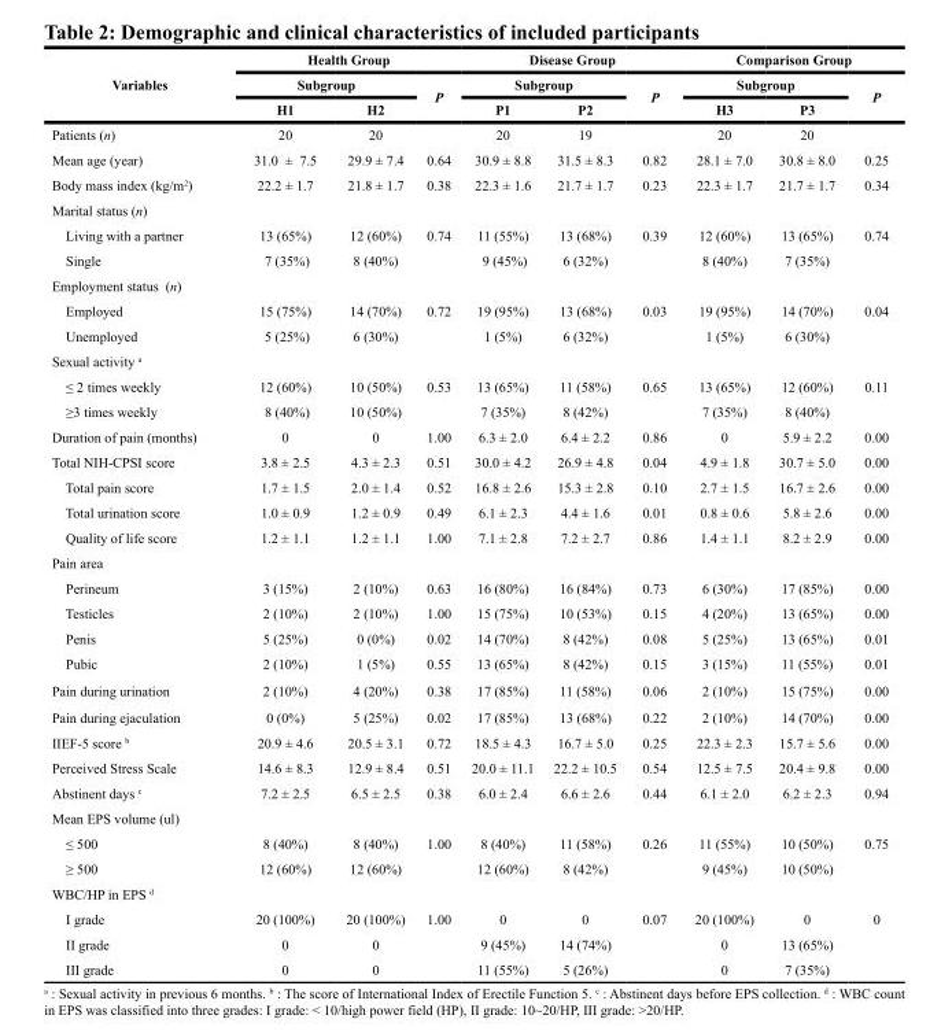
<table><thead><tr><td rowspan="3">Variables</td><td colspan="3">Health Group</td><td colspan="3">Disease Group</td><td colspan="3">Comparison Group</td></tr><tr><td colspan="2">Subgroup</td><td rowspan="2">P</td><td colspan="2">Subgroup</td><td rowspan="2">P</td><td colspan="2">Subgroup</td><td rowspan="2">P</td></tr><tr><td>H1</td><td>H2</td><td>P1</td><td>P2</td><td>H3</td><td>P3</td></tr></thead><tbody><tr><td>Patients (n)</td><td>20</td><td>20</td><td></td><td>20</td><td>19</td><td></td><td>20</td><td>20</td><td></td></tr><tr><td>Mean age (year)</td><td>31.0 ± 7.5</td><td>29.9 ± 7.4</td><td>0.64</td><td>30.9 ± 8.8</td><td>31.5 ± 8.3</td><td>0.82</td><td>28.1 ± 7.0</td><td>30.8 ± 8.0</td><td>0.25</td></tr><tr><td>Body mass index (kg/m<sup>2</sup>)</td><td>22.2 ± 1.7</td><td>21.8 ± 1.7</td><td>0.38</td><td>22.3 ± 1.6</td><td>21.7 ± 1.7</td><td>0.23</td><td>22.3 ± 1.7</td><td>21.7 ± 1.7</td><td>0.34</td></tr><tr><td colspan="10">Marital status (n)</td></tr><tr><td>Living with a partner</td><td>13 (65%)</td><td>12 (60%)</td><td>0.74</td><td>11 (55%)</td><td>13 (68%)</td><td>0.39</td><td>12 (60%)</td><td>13 (65%)</td><td>0.74</td></tr><tr><td>Single</td><td>7 (35%)</td><td>8 (40%)</td><td></td><td>9 (45%)</td><td>6 (32%)</td><td></td><td>8 (40%)</td><td>7 (35%)</td><td></td></tr><tr><td colspan="10">Employment status (n)</td></tr><tr><td>Employed</td><td>15 (75%)</td><td>14 (70%)</td><td>0.72</td><td>19 (95%)</td><td>13 (68%)</td><td>0.03</td><td>19 (95%)</td><td>14 (70%)</td><td>0.04</td></tr><tr><td>Unemployed</td><td>5 (25%)</td><td>6 (30%)</td><td></td><td>1 (5%)</td><td>6 (32%)</td><td></td><td>1 (5%)</td><td>6 (30%)</td><td></td></tr><tr><td colspan="10">Sexual activity <sup>a</sup></td></tr><tr><td>≤ 2 times weekly</td><td>12 (60%)</td><td>10 (50%)</td><td>0.53</td><td>13 (65%)</td><td>11 (58%)</td><td>0.65</td><td>13 (65%)</td><td>12 (60%)</td><td>0.11</td></tr><tr><td>≥3 times weekly</td><td>8 (40%)</td><td>10 (50%)</td><td></td><td>7 (35%)</td><td>8 (42%)</td><td></td><td>7 (35%)</td><td>8 (40%)</td><td></td></tr><tr><td>Duration of pain (months)</td><td>0</td><td>0</td><td>1.00</td><td>6.3 ± 2.0</td><td>6.4 ± 2.2</td><td>0.86</td><td>0</td><td>5.9 ± 2.2</td><td>0.00</td></tr><tr><td>Total NIH-CPSI score</td><td>3.8 ± 2.5</td><td>4.3 ± 2.3</td><td>0.51</td><td>30.0 ± 4.2</td><td>26.9 ± 4.8</td><td>0.04</td><td>4.9 ± 1.8</td><td>30.7 ± 5.0</td><td>0.00</td></tr><tr><td>Total pain score</td><td>1.7 ± 1.5</td><td>2.0 ± 1.4</td><td>0.52</td><td>16.8 ± 2.6</td><td>15.3 ± 2.8</td><td>0.10</td><td>2.7 ± 1.5</td><td>16.7 ± 2.6</td><td>0.00</td></tr><tr><td>Total urination score</td><td>1.0 ± 0.9</td><td>1.2 ± 0.9</td><td>0.49</td><td>6.1 ± 2.3</td><td>4.4 ± 1.6</td><td>0.01</td><td>0.8 ± 0.6</td><td>5.8 ± 2.6</td><td>0.00</td></tr><tr><td>Quality of life score</td><td>1.2 ± 1.1</td><td>1.2 ± 1.1</td><td>1.00</td><td>7.1 ± 2.8</td><td>7.2 ± 2.7</td><td>0.86</td><td>1.4 ± 1.1</td><td>8.2 ± 2.9</td><td>0.00</td></tr><tr><td colspan="10">Pain area</td></tr><tr><td>Perineum</td><td>3 (15%)</td><td>2 (10%)</td><td>0.63</td><td>16 (80%)</td><td>16 (84%)</td><td>0.73</td><td>6 (30%)</td><td>17 (85%)</td><td>0.00</td></tr><tr><td>Testicles</td><td>2 (10%)</td><td>2 (10%)</td><td>1.00</td><td>15 (75%)</td><td>10 (53%)</td><td>0.15</td><td>4 (20%)</td><td>13 (65%)</td><td>0.00</td></tr><tr><td>Penis</td><td>5 (25%)</td><td>0 (0%)</td><td>0.02</td><td>14 (70%)</td><td>8 (42%)</td><td>0.08</td><td>5 (25%)</td><td>13 (65%)</td><td>0.01</td></tr><tr><td>Pubic</td><td>2 (10%)</td><td>1 (5%)</td><td>0.55</td><td>13 (65%)</td><td>8 (42%)</td><td>0.15</td><td>3 (15%)</td><td>11 (55%)</td><td>0.01</td></tr><tr><td>Pain during urination</td><td>2 (10%)</td><td>4 (20%)</td><td>0.38</td><td>17 (85%)</td><td>11 (58%)</td><td>0.06</td><td>2 (10%)</td><td>15 (75%)</td><td>0.00</td></tr><tr><td>Pain during ejaculation</td><td>0 (0%)</td><td>5 (25%)</td><td>0.02</td><td>17 (85%)</td><td>13 (68%)</td><td>0.22</td><td>2 (10%)</td><td>14 (70%)</td><td>0.00</td></tr><tr><td>IIEF-5 score <sup>b</sup></td><td>20.9 ± 4.6</td><td>20.5 ± 3.1</td><td>0.72</td><td>18.5 ± 4.3</td><td>16.7 ± 5.0</td><td>0.25</td><td>22.3 ± 2.3</td><td>15.7 ± 5.6</td><td>0.00</td></tr><tr><td>Perceived Stress Scale</td><td>14.6 ± 8.3</td><td>12.9 ± 8.4</td><td>0.51</td><td>20.0 ± 11.1</td><td>22.2 ± 10.5</td><td>0.54</td><td>12.5 ± 7.5</td><td>20.4 ± 9.8</td><td>0.00</td></tr><tr><td>Abstinent days <sup>c</sup></td><td>7.2 ± 2.5</td><td>6.5 ± 2.5</td><td>0.38</td><td>6.0 ± 2.4</td><td>6.6 ± 2.6</td><td>0.44</td><td>6.1 ± 2.0</td><td>6.2 ± 2.3</td><td>0.94</td></tr><tr><td colspan="10">Mean EPS volume (ul)</td></tr><tr><td>≤ 500</td><td>8 (40%)</td><td>8 (40%)</td><td>1.00</td><td>8 (40%)</td><td>11 (58%)</td><td>0.26</td><td>11 (55%)</td><td>10 (50%)</td><td>0.75</td></tr><tr><td>≥ 500</td><td>12 (60%)</td><td>12 (60%)</td><td></td><td>12 (60%)</td><td>8 (42%)</td><td></td><td>9 (45%)</td><td>10 (50%)</td><td></td></tr><tr><td colspan="10">WBC/HP in EPS <sup>d</sup></td></tr><tr><td>I grade</td><td>20 (100%)</td><td>20 (100%)</td><td>1.00</td><td>0</td><td>0</td><td>0.07</td><td>20 (100%)</td><td>0</td><td>0</td></tr><tr><td>II grade</td><td>0</td><td>0</td><td></td><td>9 (45%)</td><td>14 (74%)</td><td></td><td>0</td><td>13 (65%)</td><td></td></tr><tr><td>III grade</td><td>0</td><td>0</td><td></td><td>11 (55%)</td><td>5 (26%)</td><td></td><td>0</td><td>7 (35%)</td><td></td></tr></tbody></table>